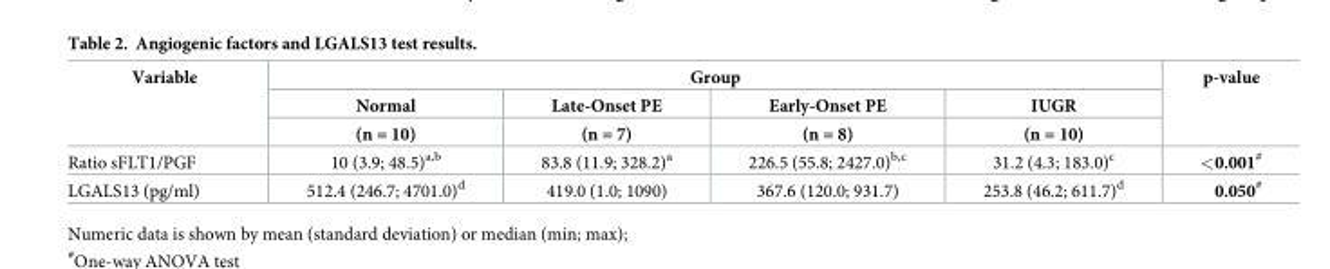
<table><thead><tr><td rowspan="3">Variable</td><td colspan="4">Group</td><td rowspan="3">p-value</td></tr><tr><td rowspan="2">Normal (n = 10)</td><td rowspan="2">Late-Onset PE (n = 7)</td><td rowspan="2">Early-Onset PE (n = 8)</td><td rowspan="2">IUGR (n = 10)</td></tr><tr></tr></thead><tbody><tr><td>Ratio sFLT1/PGF</td><td>10 (3.9; 48.5)<sup>a,b</sup></td><td>83.8 (11.9; 328.2)<sup>a</sup></td><td>226.5 (55.8; 2427.0)<sup>b,c</sup></td><td>31.2 (4.3; 183.0)<sup>c</sup></td><td>&lt;0.001<sup>#</sup></td></tr><tr><td>LGALS13 (pg/ml)</td><td>512.4 (246.7; 4701.0)<sup>d</sup></td><td>419.0 (1.0; 1090)</td><td>367.6 (120.0; 931.7)</td><td>253.8 (46.2; 611.7)<sup>d</sup></td><td>0.050<sup>#</sup></td></tr></tbody></table>